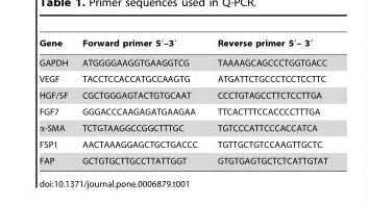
<table><thead><tr><td>Gene</td><td>Forward primer 5′–3′</td><td>Reverse primer 5′– 3′</td></tr></thead><tbody><tr><td>GAPDH</td><td>ATGGGGAAGGTGAAGGTCG</td><td>TAAAAGCAGCCCTGGTGACC</td></tr><tr><td>VEGF</td><td>TACCTCCACCATGCCAAGTG</td><td>ATGATTCTGCCCTCCTCCTTC</td></tr><tr><td>HGF/SF</td><td>CGCTGGGAGTACTGTGCAAT</td><td>CCCTGTAGCCTTCTCCTTGA</td></tr><tr><td>FGF7</td><td>GGGACCCAAGAGATGAAGAA</td><td>TTCACTTTCCACCCCTTTGA</td></tr><tr><td>α-SMA</td><td>TCTGTAAGGCCGGCTTTGC</td><td>TGTCCCATTCCCACCATCA</td></tr><tr><td>FSP1</td><td>AACTAAAGGAGCTGCTGACCC</td><td>TGTTGCTGTCCAAGTTGCTC</td></tr><tr><td>FAP</td><td>GCTGTGCTTGCCTTATTGGT</td><td>GTGTGAGTGCTCTCATTGTAT</td></tr></tbody></table>